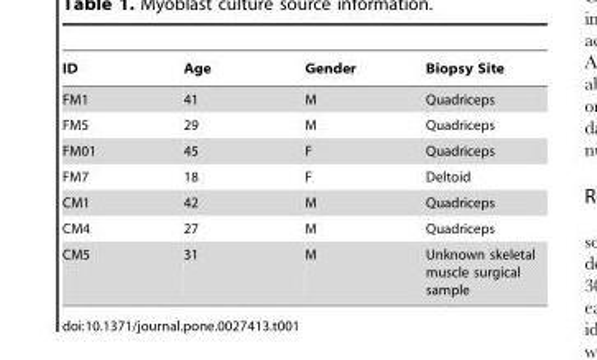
<table><thead><tr><td>ID</td><td>Age</td><td>Gender</td><td>Biopsy Site</td></tr></thead><tbody><tr><td>FM1</td><td>41</td><td>M</td><td>Quadriceps</td></tr><tr><td>FM5</td><td>29</td><td>M</td><td>Quadriceps</td></tr><tr><td>FM01</td><td>45</td><td>F</td><td>Quadriceps</td></tr><tr><td>FM7</td><td>18</td><td>F</td><td>Deltoid</td></tr><tr><td>CM1</td><td>42</td><td>M</td><td>Quadriceps</td></tr><tr><td>CM4</td><td>27</td><td>M</td><td>Quadriceps</td></tr><tr><td>CM5</td><td>31</td><td>M</td><td>Unknown skeletal muscle surgical sample</td></tr></tbody></table>